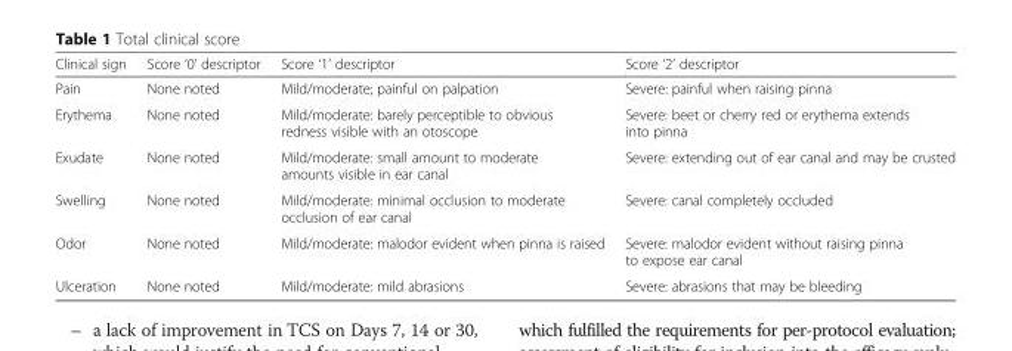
<table><thead><tr><td>Clinical sign</td><td>Score ‘0’ descriptor</td><td>Score ‘1’ descriptor</td><td>Score ‘2’ descriptor</td></tr></thead><tbody><tr><td>Pain</td><td>None noted</td><td>Mild/moderate; painful on palpation</td><td>Severe: painful when raising pinna</td></tr><tr><td>Erythema</td><td>None noted</td><td>Mild/moderate: barely perceptible to obvious redness visible with an otoscope</td><td>Severe: beet or cherry red or erythema extends into pinna</td></tr><tr><td>Exudate</td><td>None noted</td><td>Mild/moderate: small amount to moderate amounts visible in ear canal</td><td>Severe: extending out of ear canal and may be crusted</td></tr><tr><td>Swelling</td><td>None noted</td><td>Mild/moderate: minimal occlusion to moderate occlusion of ear canal</td><td>Severe: canal completely occluded</td></tr><tr><td>Odor</td><td>None noted</td><td>Mild/moderate: malodor evident when pinna is raised</td><td>Severe: malodor evident without raising pinna to expose ear canal</td></tr><tr><td>Ulceration</td><td>None noted</td><td>Mild/moderate: mild abrasions</td><td>Severe: abrasions that may be bleeding</td></tr></tbody></table>